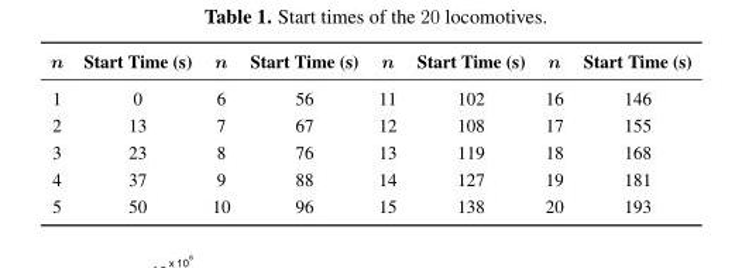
<table><thead><tr><td>n</td><td>Start Time (s)</td><td>n</td><td>Start Time (s)</td><td>n</td><td>Start Time (s)</td><td>n</td><td>Start Time (s)</td></tr></thead><tbody><tr><td>1</td><td>0</td><td>6</td><td>56</td><td>11</td><td>102</td><td>16</td><td>146</td></tr><tr><td>2</td><td>13</td><td>7</td><td>67</td><td>12</td><td>108</td><td>17</td><td>155</td></tr><tr><td>3</td><td>23</td><td>8</td><td>76</td><td>13</td><td>119</td><td>18</td><td>168</td></tr><tr><td>4</td><td>37</td><td>9</td><td>88</td><td>14</td><td>127</td><td>19</td><td>181</td></tr><tr><td>5</td><td>50</td><td>10</td><td>96</td><td>15</td><td>138</td><td>20</td><td>193</td></tr></tbody></table>